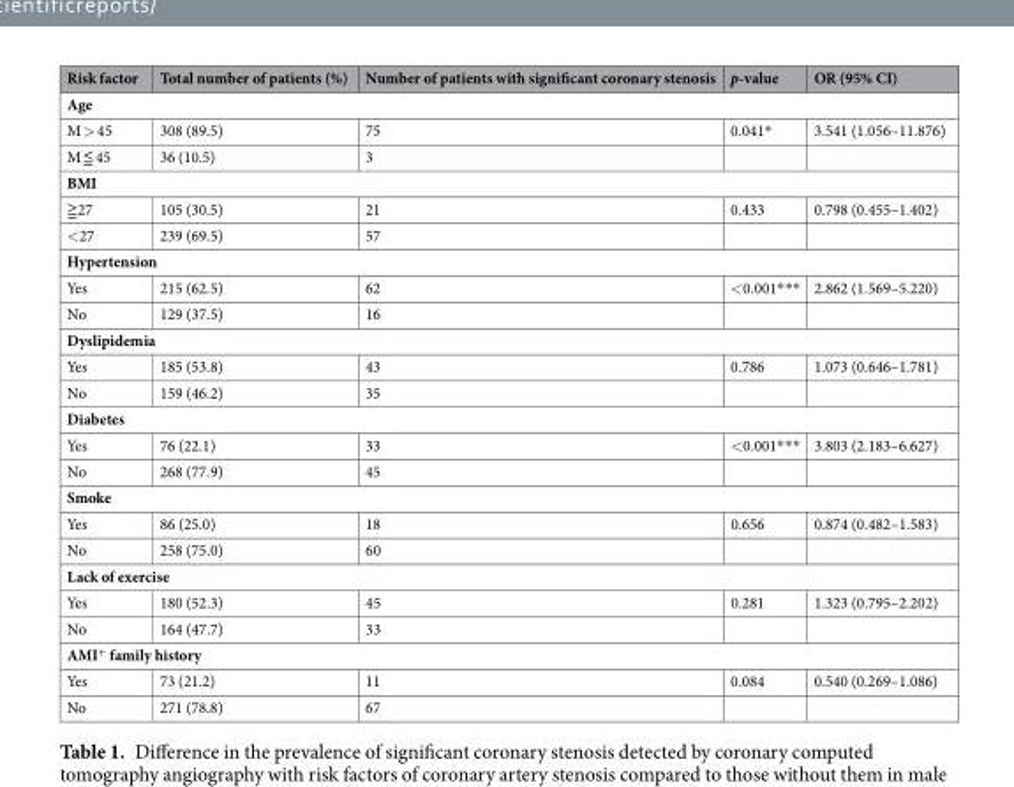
<table><thead><tr><td>Risk factor</td><td>Total number of patients (%)</td><td>Number of patients with significant coronary stenosis</td><td>p-value</td><td>OR (95% CI)</td></tr></thead><tbody><tr><td colspan="5">Age</td></tr><tr><td>M &gt; 45</td><td>308 (89.5)</td><td>75</td><td>0.041*</td><td>3.541 (1.056–11.876)</td></tr><tr><td>M ≦ 45</td><td>36 (10.5)</td><td>3</td><td></td><td></td></tr><tr><td colspan="5">BMI</td></tr><tr><td>≧27</td><td>105 (30.5)</td><td>21</td><td>0.433</td><td>0.798 (0.455–1.402)</td></tr><tr><td>&lt;27</td><td>239 (69.5)</td><td>57</td><td></td><td></td></tr><tr><td colspan="5">Hypertension</td></tr><tr><td>Yes</td><td>215 (62.5)</td><td>62</td><td>&lt;0.001***</td><td>2.862 (1.569–5.220)</td></tr><tr><td>No</td><td>129 (37.5)</td><td>16</td><td></td><td></td></tr><tr><td colspan="5">Dyslipidemia</td></tr><tr><td>Yes</td><td>185 (53.8)</td><td>43</td><td>0.786</td><td>1.073 (0.646–1.781)</td></tr><tr><td>No</td><td>159 (46.2)</td><td>35</td><td></td><td></td></tr><tr><td colspan="5">Diabetes</td></tr><tr><td>Yes</td><td>76 (22.1)</td><td>33</td><td>&lt;0.001***</td><td>3.803 (2.183–6.627)</td></tr><tr><td>No</td><td>268 (77.9)</td><td>45</td><td></td><td></td></tr><tr><td colspan="5">Smoke</td></tr><tr><td>Yes</td><td>86 (25.0)</td><td>18</td><td>0.656</td><td>0.874 (0.482–1.583)</td></tr><tr><td>No</td><td>258 (75.0)</td><td>60</td><td></td><td></td></tr><tr><td colspan="5">Lack of exercise</td></tr><tr><td>Yes</td><td>180 (52.3)</td><td>45</td><td>0.281</td><td>1.323 (0.795–2.202)</td></tr><tr><td>No</td><td>164 (47.7)</td><td>33</td><td></td><td></td></tr><tr><td colspan="5">AMI<sup>+</sup> family history</td></tr><tr><td>Yes</td><td>73 (21.2)</td><td>11</td><td>0.084</td><td>0.540 (0.269–1.086)</td></tr><tr><td>No</td><td>271 (78.8)</td><td>67</td><td></td><td></td></tr></tbody></table>